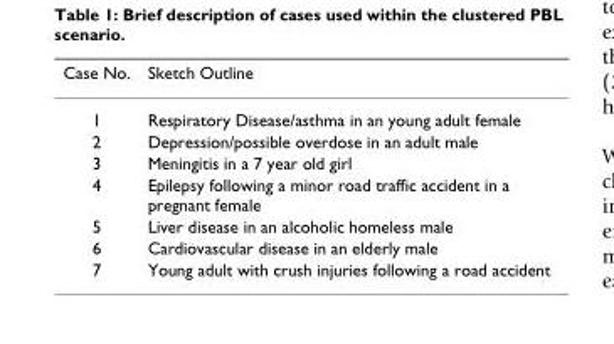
<table><thead><tr><td>Case No.</td><td>Sketch Outline</td></tr></thead><tbody><tr><td>1</td><td>Respiratory Disease/asthma in an young adult female</td></tr><tr><td>2</td><td>Depression/possible overdose in an adult male</td></tr><tr><td>3</td><td>Meningitis in a 7 year old girl</td></tr><tr><td>4</td><td>Epilepsy following a minor road traffic accident in a pregnant female</td></tr><tr><td>5</td><td>Liver disease in an alcoholic homeless male</td></tr><tr><td>6</td><td>Cardiovascular disease in an elderly male</td></tr><tr><td>7</td><td>Young adult with crush injuries following a road accident</td></tr></tbody></table>